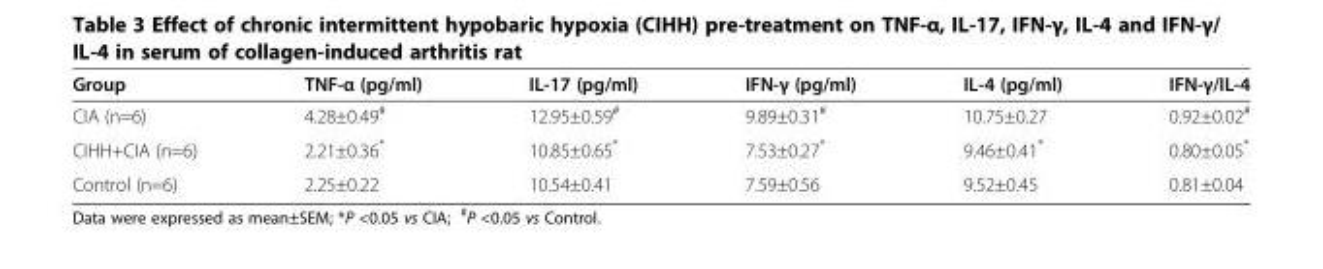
<table><thead><tr><td>Group</td><td>TNF-α (pg/ml)</td><td>IL-17 (pg/ml)</td><td>IFN-γ (pg/ml)</td><td>IL-4 (pg/ml)</td><td>IFN-γ/IL-4</td></tr></thead><tbody><tr><td>CIA (n=6)</td><td>4.28±0.49<sup>#</sup></td><td>12.95±0.59<sup>#</sup></td><td>9.89±0.31<sup>#</sup></td><td>10.75±0.27</td><td>0.92±0.02<sup>#</sup></td></tr><tr><td>CIHH+CIA (n=6)</td><td>2.21±0.36*</td><td>10.85±0.65*</td><td>7.53±0.27*</td><td>9.46±0.41*</td><td>0.80±0.05*</td></tr><tr><td>Control (n=6)</td><td>2.25±0.22</td><td>10.54±0.41</td><td>7.59±0.56</td><td>9.52±0.45</td><td>0.81±0.04</td></tr></tbody></table>